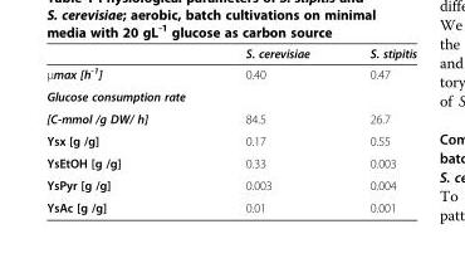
<table><thead><tr><td></td><td>S. cerevisiae</td><td>S. stipitis</td></tr></thead><tbody><tr><td>μmax [h<sup>-1</sup>]</td><td>0.40</td><td>0.47</td></tr><tr><td colspan="3">Glucose consumption rate</td></tr><tr><td>[C-mmol /g DW/ h]</td><td>84.5</td><td>26.7</td></tr><tr><td>Ysx [g /g]</td><td>0.17</td><td>0.55</td></tr><tr><td>YsEtOH [g /g]</td><td>0.33</td><td>0.003</td></tr><tr><td>YsPyr [g /g]</td><td>0.003</td><td>0.004</td></tr><tr><td>YsAc [g /g]</td><td>0.01</td><td>0.001</td></tr></tbody></table>